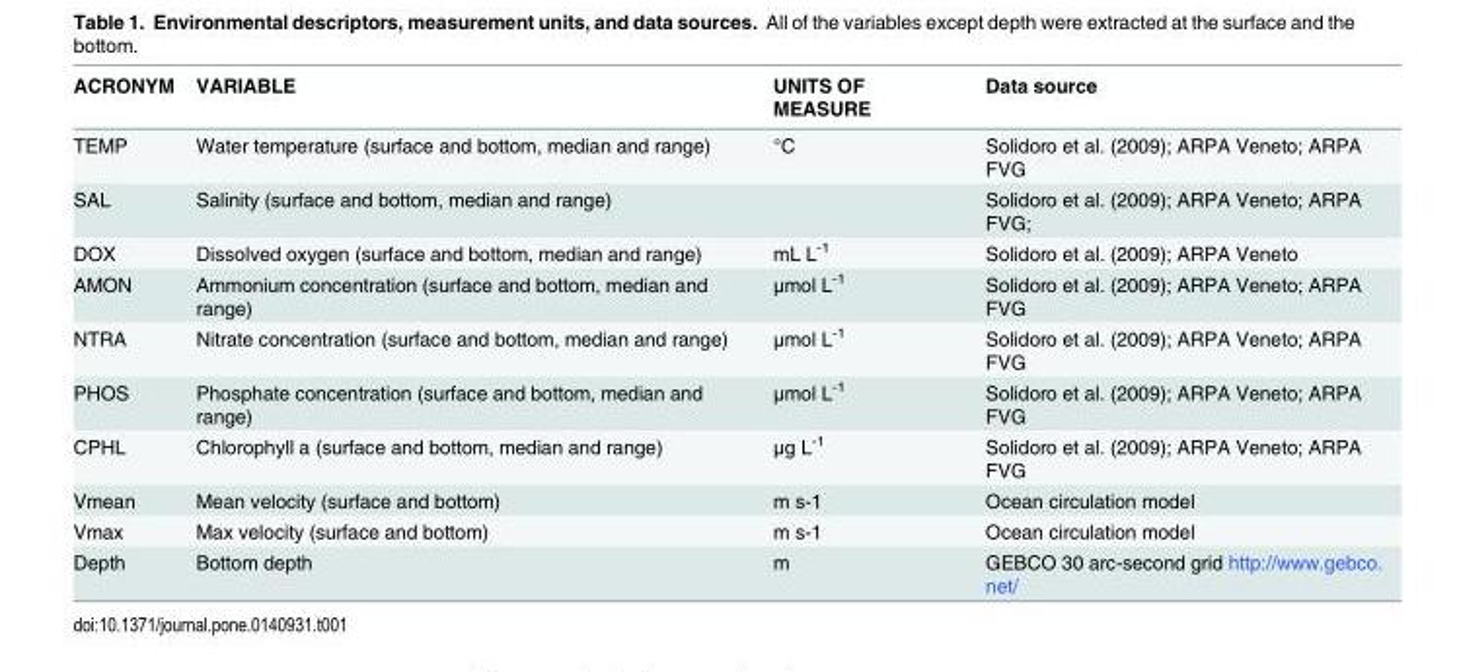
<table><thead><tr><td>ACRONYM</td><td>VARIABLE</td><td>UNITS OF MEASURE</td><td>Data source</td></tr></thead><tbody><tr><td>TEMP</td><td>Water temperature (surface and bottom, median and range)</td><td>°C</td><td>Solidoro et al. (2009); ARPA Veneto; ARPA FVG</td></tr><tr><td>SAL</td><td>Salinity (surface and bottom, median and range)</td><td></td><td>Solidoro et al. (2009); ARPA Veneto; ARPA FVG;</td></tr><tr><td>DOX</td><td>Dissolved oxygen (surface and bottom, median and range)</td><td>mL L<sup>-1</sup></td><td>Solidoro et al. (2009); ARPA Veneto</td></tr><tr><td>AMON</td><td>Ammonium concentration (surface and bottom, median and range)</td><td>μmol L<sup>-1</sup></td><td>Solidoro et al. (2009); ARPA Veneto; ARPA FVG</td></tr><tr><td>NTRA</td><td>Nitrate concentration (surface and bottom, median and range)</td><td>μmol L<sup>-1</sup></td><td>Solidoro et al. (2009); ARPA Veneto; ARPA FVG</td></tr><tr><td>PHOS</td><td>Phosphate concentration (surface and bottom, median and range)</td><td>μmol L<sup>-1</sup></td><td>Solidoro et al. (2009); ARPA Veneto; ARPA FVG</td></tr><tr><td>CPHL</td><td>Chlorophyll a (surface and bottom, median and range)</td><td>μg L<sup>-1</sup></td><td>Solidoro et al. (2009); ARPA Veneto; ARPA FVG</td></tr><tr><td>Vmean</td><td>Mean velocity (surface and bottom)</td><td>m s-1</td><td>Ocean circulation model</td></tr><tr><td>Vmax</td><td>Max velocity (surface and bottom)</td><td>m s-1</td><td>Ocean circulation model</td></tr><tr><td>Depth</td><td>Bottom depth</td><td>m</td><td>GEBCO 30 arc-second grid http://www.gebco. net/</td></tr></tbody></table>